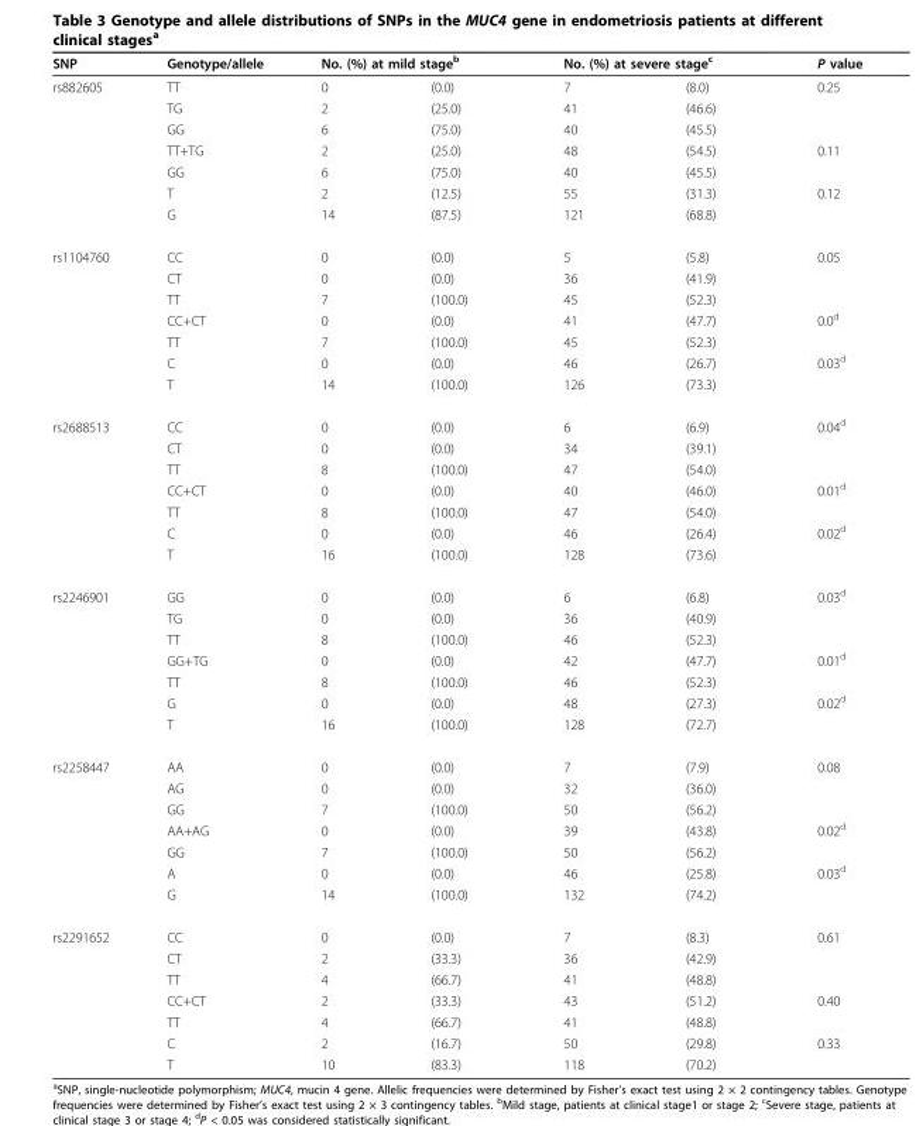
<table><thead><tr><td rowspan="2">SNP rs882605</td><td rowspan="2">Genotype/allele TT</td><td colspan="2">No. (%) at mild stage<sup>b</sup></td><td colspan="2">No. (%) at severe stage<sup>c</sup></td><td rowspan="2">P value 0.25</td></tr><tr><td>0</td><td>(0.0)</td><td>7</td><td>(8.0)</td></tr></thead><tbody><tr><td></td><td>TG</td><td>2</td><td>(25.0)</td><td>41</td><td>(46.6)</td><td></td></tr><tr><td></td><td>GG</td><td>6</td><td>(75.0)</td><td>40</td><td>(45.5)</td><td></td></tr><tr><td></td><td>TT+TG</td><td>2</td><td>(25.0)</td><td>48</td><td>(54.5)</td><td>0.11</td></tr><tr><td></td><td>GG</td><td>6</td><td>(75.0)</td><td>40</td><td>(45.5)</td><td></td></tr><tr><td></td><td>T</td><td>2</td><td>(12.5)</td><td>55</td><td>(31.3)</td><td>0.12</td></tr><tr><td></td><td>G</td><td>14</td><td>(87.5)</td><td>121</td><td>(68.8)</td><td></td></tr><tr><td rowspan="7">rs1104760</td><td>CC</td><td>0</td><td>(0.0)</td><td>5</td><td>(5.8)</td><td>0.05</td></tr><tr><td>CT</td><td>0</td><td>(0.0)</td><td>36</td><td>(41.9)</td><td></td></tr><tr><td>TT</td><td>7</td><td>(100.0)</td><td>45</td><td>(52.3)</td><td></td></tr><tr><td>CC+CT</td><td>0</td><td>(0.0)</td><td>41</td><td>(47.7)</td><td>0.0<sup>d</sup></td></tr><tr><td>TT</td><td>7</td><td>(100.0)</td><td>45</td><td>(52.3)</td><td></td></tr><tr><td>C</td><td>0</td><td>(0.0)</td><td>46</td><td>(26.7)</td><td>0.03<sup>d</sup></td></tr><tr><td>T</td><td>14</td><td>(100.0)</td><td>126</td><td>(73.3)</td><td></td></tr><tr><td rowspan="7">rs2688513</td><td>CC</td><td>0</td><td>(0.0)</td><td>6</td><td>(6.9)</td><td>0.04<sup>d</sup></td></tr><tr><td>CT</td><td>0</td><td>(0.0)</td><td>34</td><td>(39.1)</td><td></td></tr><tr><td>TT</td><td>8</td><td>(100.0)</td><td>47</td><td>(54.0)</td><td></td></tr><tr><td>CC+CT</td><td>0</td><td>(0.0)</td><td>40</td><td>(46.0)</td><td>0.01<sup>d</sup></td></tr><tr><td>TT</td><td>8</td><td>(100.0)</td><td>47</td><td>(54.0)</td><td></td></tr><tr><td>C</td><td>0</td><td>(0.0)</td><td>46</td><td>(26.4)</td><td>0.02<sup>d</sup></td></tr><tr><td>T</td><td>16</td><td>(100.0)</td><td>128</td><td>(73.6)</td><td></td></tr><tr><td rowspan="7">rs2246901</td><td>GG</td><td>0</td><td>(0.0)</td><td>6</td><td>(6.8)</td><td>0.03<sup>d</sup></td></tr><tr><td>TG</td><td>0</td><td>(0.0)</td><td>36</td><td>(40.9)</td><td></td></tr><tr><td>TT</td><td>8</td><td>(100.0)</td><td>46</td><td>(52.3)</td><td></td></tr><tr><td>GG+TG</td><td>0</td><td>(0.0)</td><td>42</td><td>(47.7)</td><td>0.01<sup>d</sup></td></tr><tr><td>TT</td><td>8</td><td>(100.0)</td><td>46</td><td>(52.3)</td><td></td></tr><tr><td>G</td><td>0</td><td>(0.0)</td><td>48</td><td>(27.3)</td><td>0.02<sup>d</sup></td></tr><tr><td>T</td><td>16</td><td>(100.0)</td><td>128</td><td>(72.7)</td><td></td></tr><tr><td rowspan="7">rs2258447</td><td>AA</td><td>0</td><td>(0.0)</td><td>7</td><td>(7.9)</td><td>0.08</td></tr><tr><td>AG</td><td>0</td><td>(0.0)</td><td>32</td><td>(36.0)</td><td></td></tr><tr><td>GG</td><td>7</td><td>(100.0)</td><td>50</td><td>(56.2)</td><td></td></tr><tr><td>AA+AG</td><td>0</td><td>(0.0)</td><td>39</td><td>(43.8)</td><td>0.02<sup>d</sup></td></tr><tr><td>GG</td><td>7</td><td>(100.0)</td><td>50</td><td>(56.2)</td><td></td></tr><tr><td>A</td><td>0</td><td>(0.0)</td><td>46</td><td>(25.8)</td><td>0.03<sup>d</sup></td></tr><tr><td>G</td><td>14</td><td>(100.0)</td><td>132</td><td>(74.2)</td><td></td></tr><tr><td rowspan="7">rs2291652</td><td>CC</td><td>0</td><td>(0.0)</td><td>7</td><td>(8.3)</td><td>0.61</td></tr><tr><td>CT</td><td>2</td><td>(33.3)</td><td>36</td><td>(42.9)</td><td></td></tr><tr><td>TT</td><td>4</td><td>(66.7)</td><td>41</td><td>(48.8)</td><td></td></tr><tr><td>CC+CT</td><td>2</td><td>(33.3)</td><td>43</td><td>(51.2)</td><td>0.40</td></tr><tr><td>TT</td><td>4</td><td>(66.7)</td><td>41</td><td>(48.8)</td><td></td></tr><tr><td>C</td><td>2</td><td>(16.7)</td><td>50</td><td>(29.8)</td><td>0.33</td></tr><tr><td>T</td><td>10</td><td>(83.3)</td><td>118</td><td>(70.2)</td><td></td></tr></tbody></table>